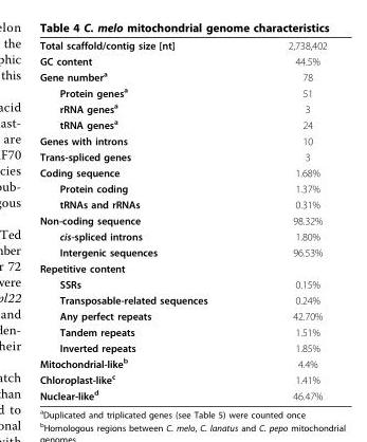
<table><tbody><tr><td>Total scaffold/contig size [nt]</td><td>2,738,402</td></tr><tr><td>GC content</td><td>44.5%</td></tr><tr><td>Gene number<sup>a</sup></td><td>78</td></tr><tr><td>Protein genes<sup>a</sup></td><td>51</td></tr><tr><td>rRNA genes<sup>a</sup></td><td>3</td></tr><tr><td>tRNA genes<sup>a</sup></td><td>24</td></tr><tr><td>Genes with introns</td><td>10</td></tr><tr><td>Trans-spliced genes</td><td>3</td></tr><tr><td>Coding sequence</td><td>1.68%</td></tr><tr><td>Protein coding</td><td>1.37%</td></tr><tr><td>tRNAs and rRNAs</td><td>0.31%</td></tr><tr><td>Non-coding sequence</td><td>98.32%</td></tr><tr><td>cis-spliced introns</td><td>1.80%</td></tr><tr><td>Intergenic sequences</td><td>96.53%</td></tr><tr><td colspan="2">Repetitive content</td></tr><tr><td>SSRs</td><td>0.15%</td></tr><tr><td>Transposable-related sequences</td><td>0.24%</td></tr><tr><td>Any perfect repeats</td><td>42.70%</td></tr><tr><td>Tandem repeats</td><td>1.51%</td></tr><tr><td>Inverted repeats</td><td>1.85%</td></tr><tr><td>Mitochondrial-like<sup>b</sup></td><td>4.4%</td></tr><tr><td>Chloroplast-like<sup>c</sup></td><td>1.41%</td></tr><tr><td>Nuclear-like<sup>d</sup></td><td>46.47%</td></tr></tbody></table>